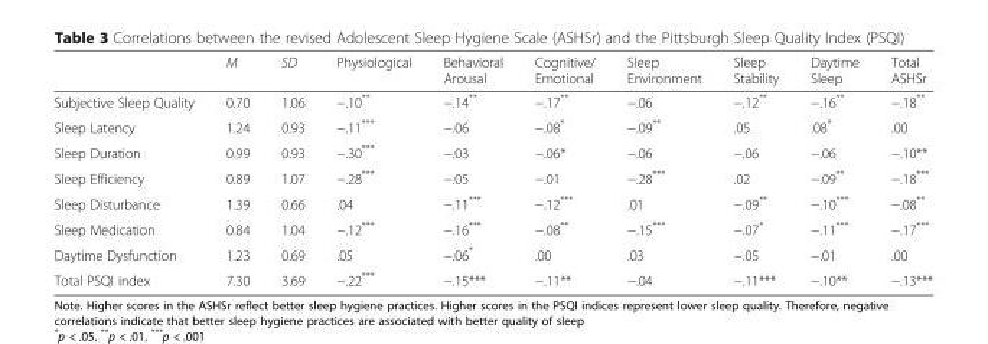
<table><thead><tr><td></td><td>M</td><td>SD</td><td>Physiological</td><td>Behavioral Arousal</td><td>Cognitive/ Emotional</td><td>Sleep Environment</td><td>Sleep Stability</td><td>Daytime Sleep</td><td>Total ASHSr</td></tr></thead><tbody><tr><td>Subjective Sleep Quality</td><td>0.70</td><td>1.06</td><td>−.10**</td><td>−.14**</td><td>−.17**</td><td>−.06</td><td>−.12**</td><td>−.16**</td><td>−.18**</td></tr><tr><td>Sleep Latency</td><td>1.24</td><td>0.93</td><td>−.11***</td><td>−.06</td><td>−.08*</td><td>−.09**</td><td>.05</td><td>.08*</td><td>.00</td></tr><tr><td>Sleep Duration</td><td>0.99</td><td>0.93</td><td>−.30***</td><td>−.03</td><td>−.06*</td><td>−.06</td><td>−.06</td><td>−.06</td><td>−.10**</td></tr><tr><td>Sleep Efficiency</td><td>0.89</td><td>1.07</td><td>−.28***</td><td>−.05</td><td>−.01</td><td>−.28***</td><td>.02</td><td>−.09**</td><td>−.18***</td></tr><tr><td>Sleep Disturbance</td><td>1.39</td><td>0.66</td><td>.04</td><td>−.11***</td><td>−.12***</td><td>.01</td><td>−.09**</td><td>−.10***</td><td>−.08**</td></tr><tr><td>Sleep Medication</td><td>0.84</td><td>1.04</td><td>−.12***</td><td>−.16***</td><td>−.08**</td><td>−.15***</td><td>−.07*</td><td>−.11***</td><td>−.17***</td></tr><tr><td>Daytime Dysfunction</td><td>1.23</td><td>0.69</td><td>.05</td><td>−.06*</td><td>.00</td><td>.03</td><td>−.05</td><td>−.01</td><td>.00</td></tr><tr><td>Total PSQI index</td><td>7.30</td><td>3.69</td><td>−.22***</td><td>−.15***</td><td>−.11**</td><td>−.04</td><td>−.11***</td><td>−.10**</td><td>−.13***</td></tr></tbody></table>